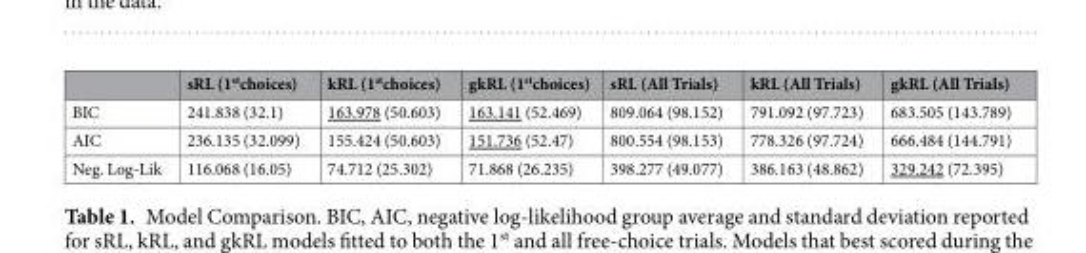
<table><thead><tr><td></td><td>sRL (1<sup>st</sup>choices)</td><td>kRL (1<sup>st</sup>choices)</td><td>gkRL (1<sup>st</sup>choices)</td><td>sRL (All Trials)</td><td>kRL (All Trials)</td><td>gkRL (All Trials)</td></tr></thead><tbody><tr><td>BIC</td><td>241.838 (32.1)</td><td>163.978 (50.603)</td><td>163.141 (52.469)</td><td>809.064 (98.152)</td><td>791.092 (97.723)</td><td>683.505 (143.789)</td></tr><tr><td>AIC</td><td>236.135 (32.099)</td><td>155.424 (50.603)</td><td>151.736 (52.47)</td><td>800.554 (98.153)</td><td>778.326 (97.724)</td><td>666.484 (144.791)</td></tr><tr><td>Neg. Log-Lik</td><td>116.068 (16.05)</td><td>74.712 (25.302)</td><td>71.868 (26.235)</td><td>398.277 (49.077)</td><td>386.163 (48.862)</td><td>329.242 (72.395)</td></tr></tbody></table>